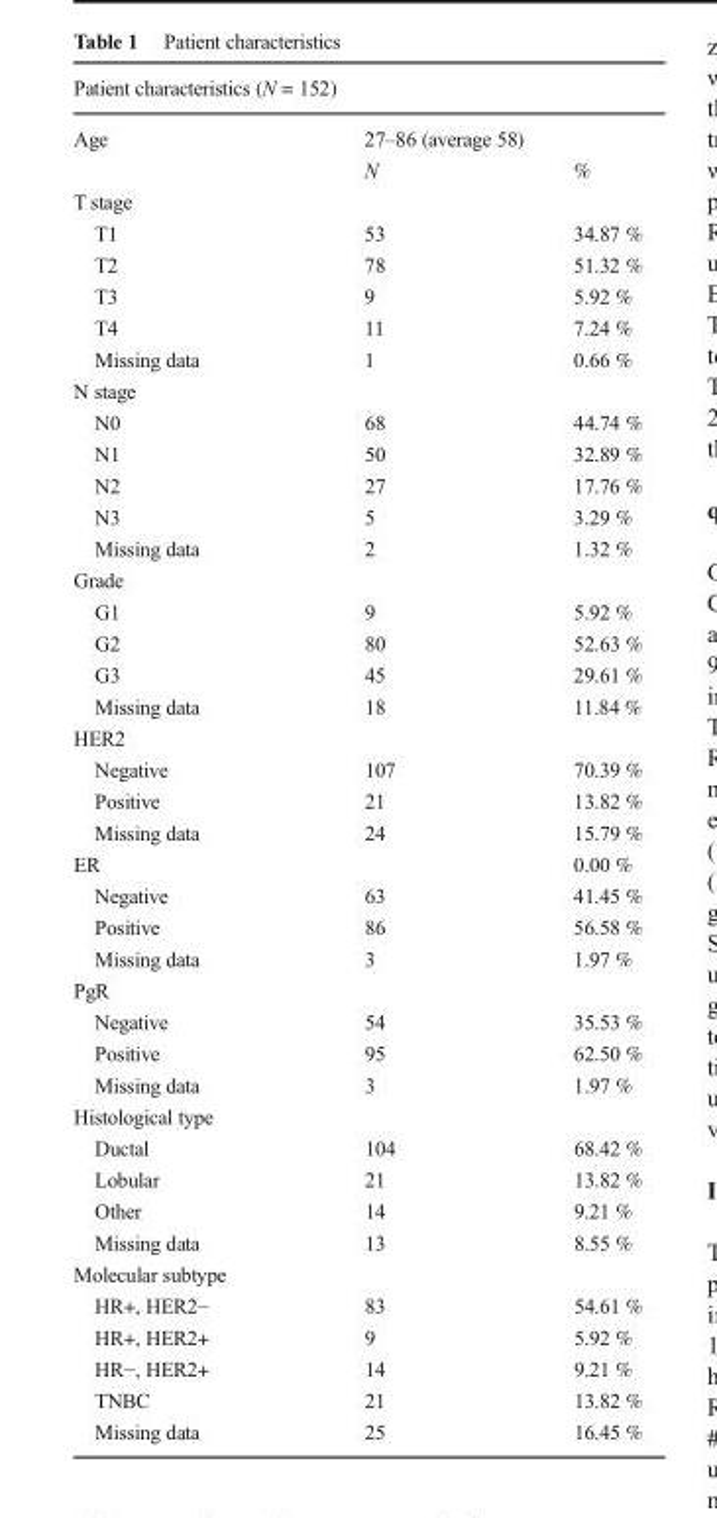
<table><thead><tr><td colspan="3">Patient characteristics (N = 152)</td></tr><tr><td rowspan="2">Age</td><td colspan="2">27–86 (average 58)</td></tr><tr><td>N</td><td>%</td></tr></thead><tbody><tr><td colspan="3">T stage</td></tr><tr><td>T1</td><td>53</td><td>34.87 %</td></tr><tr><td>T2</td><td>78</td><td>51.32 %</td></tr><tr><td>T3</td><td>9</td><td>5.92 %</td></tr><tr><td>T4</td><td>11</td><td>7.24 %</td></tr><tr><td>Missing data</td><td>1</td><td>0.66 %</td></tr><tr><td colspan="3">N stage</td></tr><tr><td>N0</td><td>68</td><td>44.74 %</td></tr><tr><td>N1</td><td>50</td><td>32.89 %</td></tr><tr><td>N2</td><td>27</td><td>17.76 %</td></tr><tr><td>N3</td><td>5</td><td>3.29 %</td></tr><tr><td>Missing data</td><td>2</td><td>1.32 %</td></tr><tr><td colspan="3">Grade</td></tr><tr><td>G1</td><td>9</td><td>5.92 %</td></tr><tr><td>G2</td><td>80</td><td>52.63 %</td></tr><tr><td>G3</td><td>45</td><td>29.61 %</td></tr><tr><td>Missing data</td><td>18</td><td>11.84 %</td></tr><tr><td colspan="3">HER2</td></tr><tr><td>Negative</td><td>107</td><td>70.39 %</td></tr><tr><td>Positive</td><td>21</td><td>13.82 %</td></tr><tr><td>Missing data</td><td>24</td><td>15.79 %</td></tr><tr><td>ER</td><td></td><td>0.00 %</td></tr><tr><td>Negative</td><td>63</td><td>41.45 %</td></tr><tr><td>Positive</td><td>86</td><td>56.58 %</td></tr><tr><td>Missing data</td><td>3</td><td>1.97 %</td></tr><tr><td colspan="3">PgR</td></tr><tr><td>Negative</td><td>54</td><td>35.53 %</td></tr><tr><td>Positive</td><td>95</td><td>62.50 %</td></tr><tr><td>Missing data</td><td>3</td><td>1.97 %</td></tr><tr><td colspan="3">Histological type</td></tr><tr><td>Ductal</td><td>104</td><td>68.42 %</td></tr><tr><td>Lobular</td><td>21</td><td>13.82 %</td></tr><tr><td>Other</td><td>14</td><td>9.21 %</td></tr><tr><td>Missing data</td><td>13</td><td>8.55 %</td></tr><tr><td colspan="3">Molecular subtype</td></tr><tr><td>HR+, HER2−</td><td>83</td><td>54.61 %</td></tr><tr><td>HR+, HER2+</td><td>9</td><td>5.92 %</td></tr><tr><td>HR−, HER2+</td><td>14</td><td>9.21 %</td></tr><tr><td>TNBC</td><td>21</td><td>13.82 %</td></tr><tr><td>Missing data</td><td>25</td><td>16.45 %</td></tr></tbody></table>